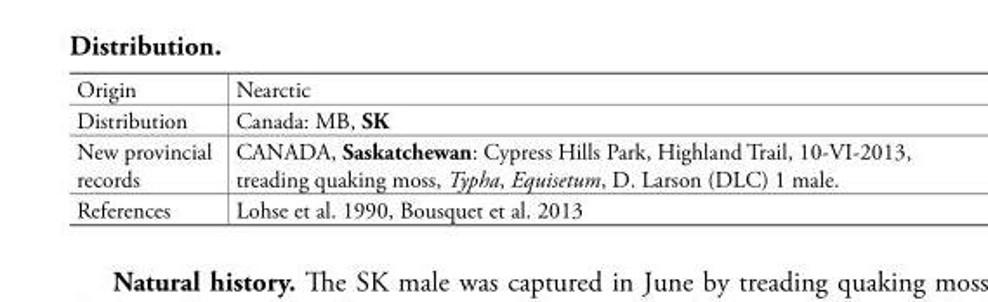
<table><tbody><tr><td>Origin</td><td>Nearctic</td></tr><tr><td>Distribution</td><td>Canada: MB, SK</td></tr><tr><td>New provincial records</td><td>CANADA, Saskatchewan: Cypress Hills Park, Highland Trail, 10-VI-2013, treading quaking moss, Typha, Equisetum, D. Larson (DLC) 1 male.</td></tr><tr><td>References</td><td>Lohse et al. 1990, Bousquet et al. 2013</td></tr></tbody></table>